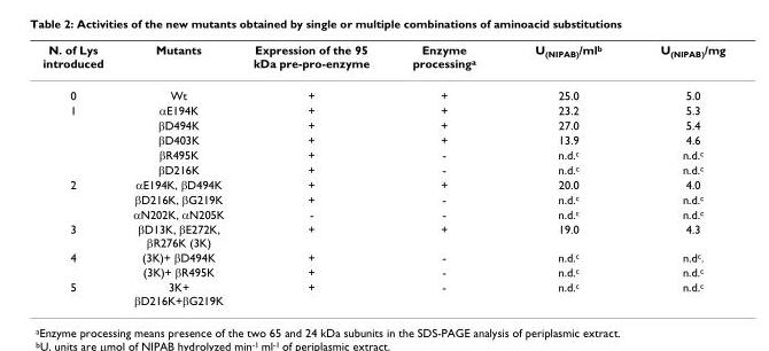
<table><thead><tr><td>N. of Lys introduced</td><td>Mutants</td><td>Expression of the 95 kDa pre-pro-enzyme</td><td>Enzyme processing<sup>a</sup></td><td>U<sub>(NIPAB)</sub>/ml<sup>b</sup></td><td>U<sub>(NIPAB)</sub>/mg</td></tr></thead><tbody><tr><td>0</td><td>Wt</td><td>+</td><td>+</td><td>25.0</td><td>5.0</td></tr><tr><td rowspan="5">1</td><td>αE194K</td><td>+</td><td>+</td><td>23.2</td><td>5.3</td></tr><tr><td>βD494K</td><td>+</td><td>+</td><td>27.0</td><td>5.4</td></tr><tr><td>βD403K</td><td>+</td><td>+</td><td>13.9</td><td>4.6</td></tr><tr><td>βR495K</td><td>+</td><td>-</td><td>n.d.<sup>c</sup></td><td>n.d.<sup>c</sup></td></tr><tr><td>βD216K</td><td>+</td><td>-</td><td>n.d.<sup>c</sup></td><td>n.d.<sup>c</sup></td></tr><tr><td rowspan="3">2</td><td>αE194K, βD494K</td><td>+</td><td>+</td><td>20.0</td><td>4.0</td></tr><tr><td>βD216K, βG219K</td><td>+</td><td>-</td><td>n.d.<sup>c</sup></td><td>n.d.<sup>c</sup></td></tr><tr><td>αN202K, αN205K</td><td>-</td><td>-</td><td>n.d.<sup>c</sup></td><td>n.d.<sup>c</sup></td></tr><tr><td>3</td><td>βD13K, βE272K, βR276K (3K)</td><td>+</td><td>+</td><td>19.0</td><td>4.3</td></tr><tr><td rowspan="2">4</td><td>(3K)+ βD494K</td><td>+</td><td>-</td><td>n.d.<sup>c</sup></td><td>n.d<sup>c</sup>.</td></tr><tr><td>(3K)+ βR495K</td><td>+</td><td>-</td><td>n.d.<sup>c</sup></td><td>n.d.<sup>c</sup></td></tr><tr><td>5</td><td>3K+ βD216K+βG219K</td><td>+</td><td>-</td><td>n.d.<sup>c</sup></td><td>n.d.<sup>c</sup></td></tr></tbody></table>